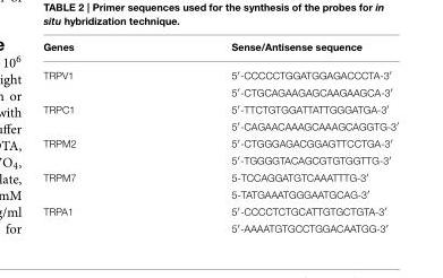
<table><thead><tr><td>Genes</td><td>Sense/Antisense sequence</td></tr></thead><tbody><tr><td rowspan="2">TRPV1</td><td>5′-CCCCCTGGATGGAGACCCTA-3′</td></tr><tr><td>5′-CTGCAGAAGAGCAAGAAGCA-3′</td></tr><tr><td rowspan="2">TRPC1</td><td>5′-TTCTGTGGATTATTGGGATGA-3′</td></tr><tr><td>5′-CAGAACAAAGCAAAGCAGGTG-3′</td></tr><tr><td rowspan="2">TRPM2</td><td>5′-CTGGGAGACGGAGTTCCTGA-3′</td></tr><tr><td>5′-TGGGGTACAGCGTGTGGTTG-3′</td></tr><tr><td rowspan="2">TRPM7</td><td>5-TCCAGGATGTCAAATTTG-3′</td></tr><tr><td>5-TATGAAATGGGAATGCAG-3′</td></tr><tr><td rowspan="2">TRPA1</td><td>5′-CCCCTCTGCATTGTGCTGTA-3′</td></tr><tr><td>5′-AAAATGTGCCTGGACAATGG-3′</td></tr></tbody></table>